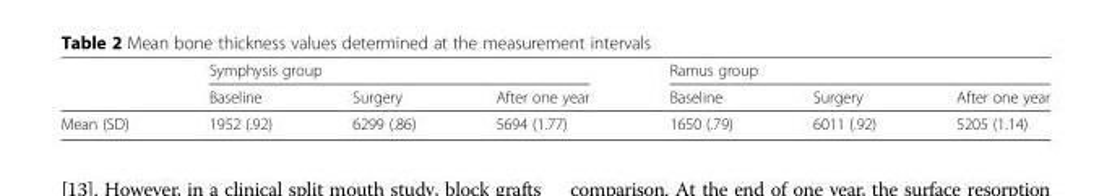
<table><thead><tr><td rowspan="2"></td><td colspan="3">Symphysis group</td><td colspan="3">Ramus group</td></tr><tr><td>Baseline</td><td>Surgery</td><td>After one year</td><td>Baseline</td><td>Surgery</td><td>After one year</td></tr></thead><tbody><tr><td>Mean (SD)</td><td>1952 (.92)</td><td>6299 (.86)</td><td>5694 (1.77)</td><td>1650 (.79)</td><td>6011 (.92)</td><td>5205 (1.14)</td></tr></tbody></table>